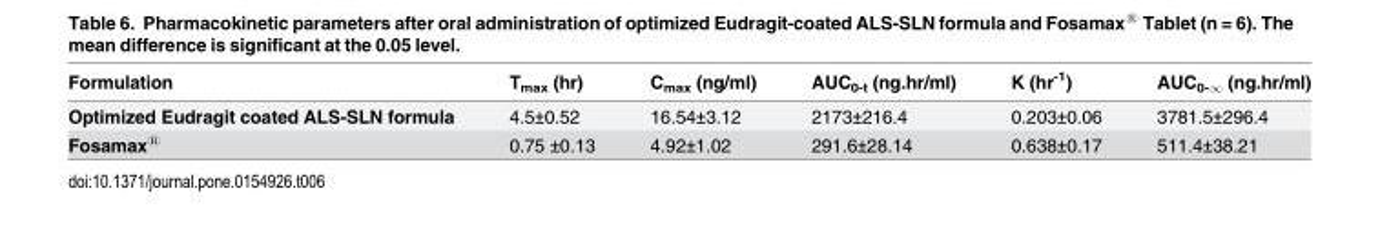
<table><thead><tr><td>Formulation</td><td>T<sub>max</sub> (hr)</td><td>C<sub>max</sub> (ng/ml)</td><td>AUC<sub>0-t</sub> (ng.hr/ml)</td><td>K (hr<sup>-1</sup>)</td><td>AUC<sub>0-∞</sub> (ng.hr/ml)</td></tr></thead><tbody><tr><td>Optimized Eudragit coated ALS-SLN formula</td><td>4.5±0.52</td><td>16.54±3.12</td><td>2173±216.4</td><td>0.203±0.06</td><td>3781.5±296.4</td></tr><tr><td>Fosamax<sup>®</sup></td><td>0.75 ±0.13</td><td>4.92±1.02</td><td>291.6±28.14</td><td>0.638±0.17</td><td>511.4±38.21</td></tr></tbody></table>